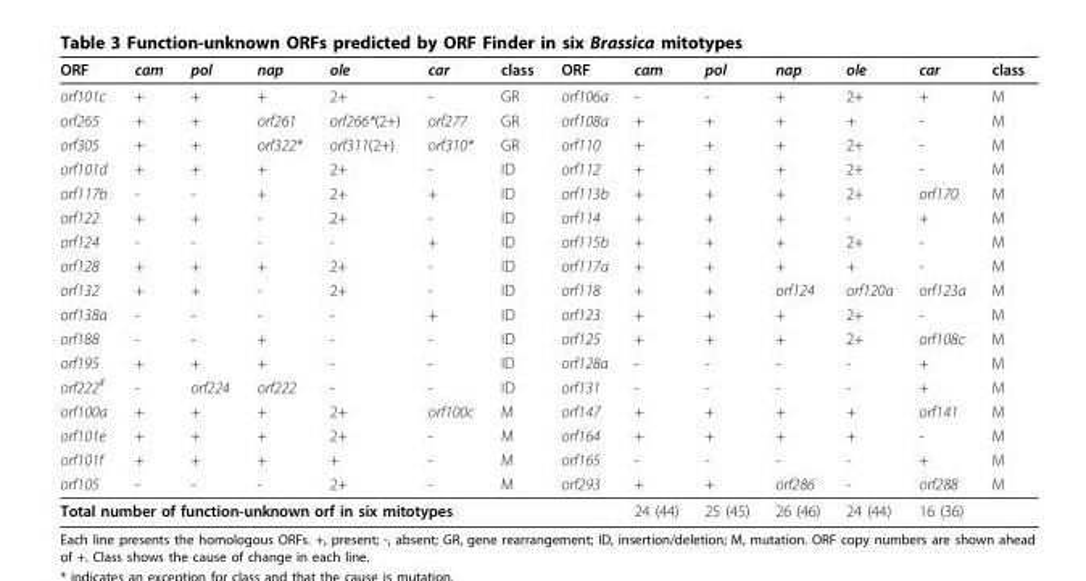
<table><thead><tr><td>ORF</td><td>cam</td><td>pol</td><td>nap</td><td>ole</td><td>car</td><td>class</td><td>ORF</td><td>cam</td><td>pol</td><td>nap</td><td>ole</td><td>car</td><td>class</td></tr></thead><tbody><tr><td>orf101c</td><td>+</td><td>+</td><td>+</td><td>2+</td><td>-</td><td>GR</td><td>orf106a</td><td>-</td><td>-</td><td>+</td><td>2+</td><td>+</td><td>M</td></tr><tr><td>orf265</td><td>+</td><td>+</td><td>orf261</td><td>orf266*(2+)</td><td>orf277</td><td>GR</td><td>orf108a</td><td>+</td><td>+</td><td>+</td><td>+</td><td>-</td><td>M</td></tr><tr><td>orf305</td><td>+</td><td>+</td><td>orf322*</td><td>orf311(2+)</td><td>orf310*</td><td>GR</td><td>orf110</td><td>+</td><td>+</td><td>+</td><td>2+</td><td>-</td><td>M</td></tr><tr><td>orf101d</td><td>+</td><td>+</td><td>+</td><td>2+</td><td>-</td><td>ID</td><td>orf112</td><td>+</td><td>+</td><td>+</td><td>2+</td><td>-</td><td>M</td></tr><tr><td>orf117b</td><td>-</td><td>-</td><td>+</td><td>2+</td><td>+</td><td>ID</td><td>orf113b</td><td>+</td><td>+</td><td>+</td><td>2+</td><td>orf170</td><td>M</td></tr><tr><td>orf122</td><td>+</td><td>+</td><td>-</td><td>2+</td><td>-</td><td>ID</td><td>orf114</td><td>+</td><td>+</td><td>+</td><td>-</td><td>+</td><td>M</td></tr><tr><td>orf124</td><td>-</td><td>-</td><td>-</td><td>-</td><td>+</td><td>ID</td><td>orf115b</td><td>+</td><td>+</td><td>+</td><td>2+</td><td>-</td><td>M</td></tr><tr><td>orf128</td><td>+</td><td>+</td><td>+</td><td>2+</td><td>-</td><td>ID</td><td>orf117a</td><td>+</td><td>+</td><td>+</td><td>+</td><td>-</td><td>M</td></tr><tr><td>orf132</td><td>+</td><td>+</td><td>-</td><td>2+</td><td>-</td><td>ID</td><td>orf118</td><td>+</td><td>+</td><td>orf124</td><td>orf120a</td><td>orf123a</td><td>M</td></tr><tr><td>orf138a</td><td>-</td><td>-</td><td>-</td><td>-</td><td>+</td><td>ID</td><td>orf123</td><td>+</td><td>+</td><td>+</td><td>2+</td><td>-</td><td>M</td></tr><tr><td>orf188</td><td>-</td><td>-</td><td>+</td><td>-</td><td>-</td><td>ID</td><td>orf125</td><td>+</td><td>+</td><td>+</td><td>2+</td><td>orf108c</td><td>M</td></tr><tr><td>orf195</td><td>+</td><td>+</td><td>+</td><td>-</td><td>-</td><td>ID</td><td>orf128a</td><td>-</td><td>-</td><td>-</td><td>-</td><td>+</td><td>M</td></tr><tr><td>orf222<sup>#</sup></td><td>-</td><td>orf224</td><td>orf222</td><td>-</td><td>-</td><td>ID</td><td>orf131</td><td>-</td><td>-</td><td>-</td><td>-</td><td>+</td><td>M</td></tr><tr><td>orf100a</td><td>+</td><td>+</td><td>+</td><td>2+</td><td>orf100c</td><td>M</td><td>orf147</td><td>+</td><td>+</td><td>+</td><td>+</td><td>orf141</td><td>M</td></tr><tr><td>orf101e</td><td>+</td><td>+</td><td>+</td><td>2+</td><td>-</td><td>M</td><td>orf164</td><td>+</td><td>+</td><td>+</td><td>+</td><td>-</td><td>M</td></tr><tr><td>orf101f</td><td>+</td><td>+</td><td>+</td><td>+</td><td>-</td><td>M</td><td>orf165</td><td>-</td><td>-</td><td>-</td><td>-</td><td>+</td><td>M</td></tr><tr><td>orf105</td><td>-</td><td>-</td><td>-</td><td>2+</td><td>-</td><td>M</td><td>orf293</td><td>+</td><td>+</td><td>orf286</td><td>-</td><td>orf288</td><td>M</td></tr><tr><td colspan="7">Total number of function-unknown orf in six mitotypes</td><td></td><td>24 (44)</td><td>25 (45)</td><td>26 (46)</td><td>24 (44)</td><td>16 (36)</td><td></td></tr></tbody></table>